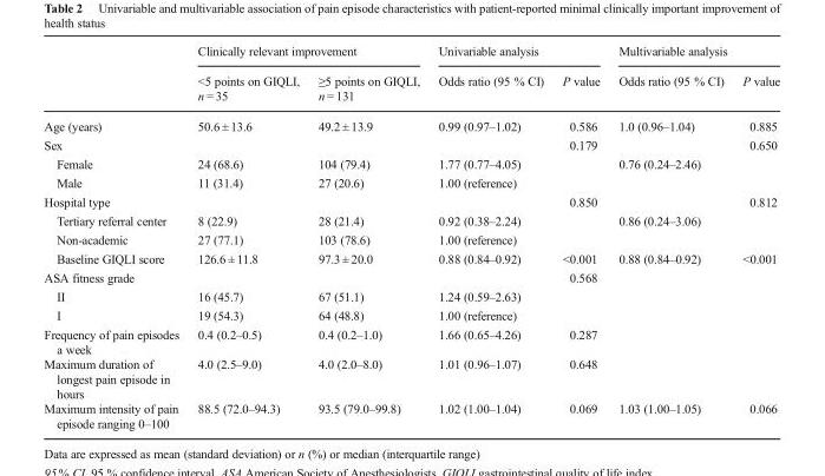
<table><thead><tr><td rowspan="2"></td><td colspan="2">Clinically relevant improvement</td><td colspan="2">Univariable analysis</td><td colspan="2">Multivariable analysis</td></tr><tr><td>&lt;5 points on GIQLI, n = 35</td><td>≥5 points on GIQLI, n = 131</td><td>Odds ratio (95 % CI)</td><td>P value</td><td>Odds ratio (95 % CI)</td><td>P value</td></tr></thead><tbody><tr><td>Age (years)</td><td>50.6 ± 13.6</td><td>49.2 ± 13.9</td><td>0.99 (0.97–1.02)</td><td>0.586</td><td>1.0 (0.96–1.04)</td><td>0.885</td></tr><tr><td colspan="4">Sex</td><td>0.179</td><td></td><td>0.650</td></tr><tr><td>Female</td><td>24 (68.6)</td><td>104 (79.4)</td><td>1.77 (0.77–4.05)</td><td></td><td>0.76 (0.24–2.46)</td><td></td></tr><tr><td>Male</td><td>11 (31.4)</td><td>27 (20.6)</td><td>1.00 (reference)</td><td></td><td></td><td></td></tr><tr><td colspan="4">Hospital type</td><td>0.850</td><td></td><td>0.812</td></tr><tr><td>Tertiary referral center</td><td>8 (22.9)</td><td>28 (21.4)</td><td>0.92 (0.38–2.24)</td><td></td><td>0.86 (0.24–3.06)</td><td></td></tr><tr><td>Non-academic</td><td>27 (77.1)</td><td>103 (78.6)</td><td>1.00 (reference)</td><td></td><td></td><td></td></tr><tr><td>Baseline GIQLI score</td><td>126.6 ± 11.8</td><td>97.3 ± 20.0</td><td>0.88 (0.84–0.92)</td><td>&lt;0.001</td><td>0.88 (0.84–0.92)</td><td>&lt;0.001</td></tr><tr><td colspan="4">ASA fitness grade</td><td>0.568</td><td></td><td></td></tr><tr><td>II</td><td>16 (45.7)</td><td>67 (51.1)</td><td>1.24 (0.59–2.63)</td><td></td><td></td><td></td></tr><tr><td>I</td><td>19 (54.3)</td><td>64 (48.8)</td><td>1.00 (reference)</td><td></td><td></td><td></td></tr><tr><td>Frequency of pain episodes a week</td><td>0.4 (0.2–0.5)</td><td>0.4 (0.2–1.0)</td><td>1.66 (0.65–4.26)</td><td>0.287</td><td></td><td></td></tr><tr><td>Maximum duration of longest pain episode in hours</td><td>4.0 (2.5–9.0)</td><td>4.0 (2.0–8.0)</td><td>1.01 (0.96–1.07)</td><td>0.648</td><td></td><td></td></tr><tr><td>Maximum intensity of pain episode ranging 0–100</td><td>88.5 (72.0–94.3)</td><td>93.5 (79.0–99.8)</td><td>1.02 (1.00–1.04)</td><td>0.069</td><td>1.03 (1.00–1.05)</td><td>0.066</td></tr></tbody></table>